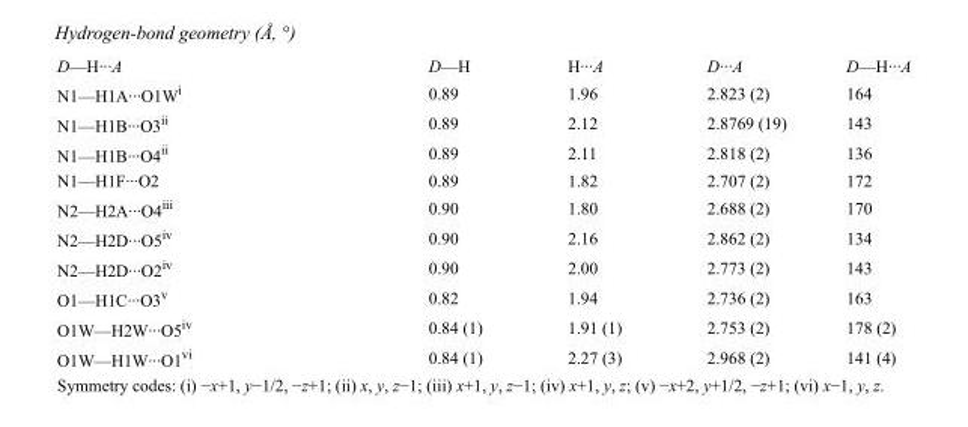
<table><tbody><tr><td>D—H···A</td><td>D—H</td><td>H···A</td><td>D···A</td><td>D—H···A</td></tr><tr><td>N1—H1A···O1W<sup>i</sup></td><td>0.89</td><td>1.96</td><td>2.823 (2)</td><td>164</td></tr><tr><td>N1—H1B···O3<sup>ii</sup></td><td>0.89</td><td>2.12</td><td>2.8769 (19)</td><td>143</td></tr><tr><td>N1—H1B···O4<sup>ii</sup></td><td>0.89</td><td>2.11</td><td>2.818 (2)</td><td>136</td></tr><tr><td>N1—H1F···O2</td><td>0.89</td><td>1.82</td><td>2.707 (2)</td><td>172</td></tr><tr><td>N2—H2A···O4<sup>iii</sup></td><td>0.90</td><td>1.80</td><td>2.688 (2)</td><td>170</td></tr><tr><td>N2—H2D···O5<sup>iv</sup></td><td>0.90</td><td>2.16</td><td>2.862 (2)</td><td>134</td></tr><tr><td>N2—H2D···O2<sup>iv</sup></td><td>0.90</td><td>2.00</td><td>2.773 (2)</td><td>143</td></tr><tr><td>O1—H1C···O3<sup>v</sup></td><td>0.82</td><td>1.94</td><td>2.736 (2)</td><td>163</td></tr><tr><td>O1W—H2W···O5<sup>iv</sup></td><td>0.84 (1)</td><td>1.91 (1)</td><td>2.753 (2)</td><td>178 (2)</td></tr><tr><td>O1W—H1W···O1<sup>vi</sup></td><td>0.84 (1)</td><td>2.27 (3)</td><td>2.968 (2)</td><td>141 (4)</td></tr></tbody></table>